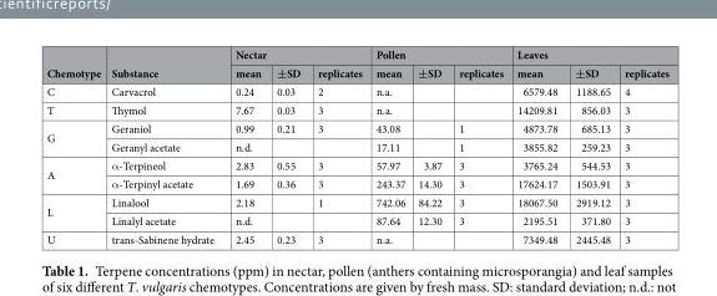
<table><thead><tr><td rowspan="2">Chemotype</td><td rowspan="2">Substance</td><td colspan="3">Nectar</td><td colspan="3">Pollen</td><td colspan="3">Leaves</td></tr><tr><td>mean</td><td>±SD</td><td>replicates</td><td>mean</td><td>±SD</td><td>replicates</td><td>mean</td><td>±SD</td><td>replicates</td></tr></thead><tbody><tr><td>C</td><td>Carvacrol</td><td>0.24</td><td>0.03</td><td>2</td><td>n.a.</td><td></td><td></td><td>6579.48</td><td>1188.65</td><td>4</td></tr><tr><td>T</td><td>Thymol</td><td>7.67</td><td>0.03</td><td>3</td><td>n.a.</td><td></td><td></td><td>14209.81</td><td>856.03</td><td>3</td></tr><tr><td rowspan="2">G</td><td>Geraniol</td><td>0.99</td><td>0.21</td><td>3</td><td>43.08</td><td></td><td>1</td><td>4873.78</td><td>685.13</td><td>3</td></tr><tr><td>Geranyl acetate</td><td>n.d.</td><td></td><td></td><td>17.11</td><td></td><td>1</td><td>3855.82</td><td>259.23</td><td>3</td></tr><tr><td rowspan="2">A</td><td>α-Terpineol</td><td>2.83</td><td>0.55</td><td>3</td><td>57.97</td><td>3.87</td><td>3</td><td>3765.24</td><td>544.53</td><td>3</td></tr><tr><td>α-Terpinyl acetate</td><td>1.69</td><td>0.36</td><td>3</td><td>243.37</td><td>14.30</td><td>3</td><td>17624.17</td><td>1503.91</td><td>3</td></tr><tr><td rowspan="2">L</td><td>Linalool</td><td>2.18</td><td></td><td>1</td><td>742.06</td><td>84.22</td><td>3</td><td>18067.50</td><td>2919.12</td><td>3</td></tr><tr><td>Linalyl acetate</td><td>n.d.</td><td></td><td></td><td>87.64</td><td>12.30</td><td>3</td><td>2195.51</td><td>371.80</td><td>3</td></tr><tr><td>U</td><td>trans-Sabinene hydrate</td><td>2.45</td><td>0.23</td><td>3</td><td>n.a.</td><td></td><td></td><td>7349.48</td><td>2445.48</td><td>3</td></tr></tbody></table>